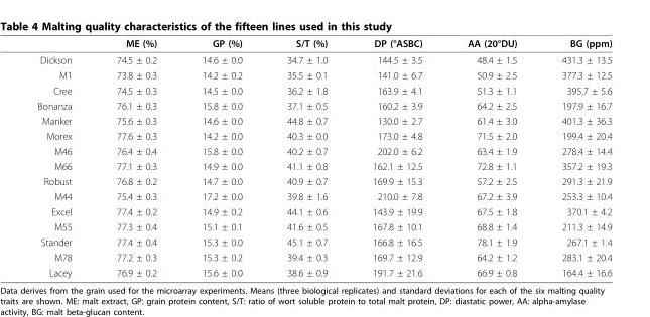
<table><thead><tr><td></td><td>ME (%)</td><td>GP (%)</td><td>S/T (%)</td><td>DP (°ASBC)</td><td>AA (20°DU)</td><td>BG (ppm)</td></tr></thead><tbody><tr><td>Dickson</td><td>74.5 ± 0.2</td><td>14.6 ± 0.0</td><td>34.7 ± 1.0</td><td>144.5 ± 3.5</td><td>48.4 ± 1.5</td><td>431.3 ± 13.5</td></tr><tr><td>M1</td><td>73.8 ± 0.3</td><td>14.2 ± 0.2</td><td>35.5 ± 0.1</td><td>141.0 ± 6.7</td><td>50.9 ± 2.5</td><td>377.3 ± 12.5</td></tr><tr><td>Cree</td><td>74.5 ± 0.3</td><td>14.5 ± 0.0</td><td>36.2 ± 1.8</td><td>163.9 ± 4.1</td><td>51.3 ± 1.1</td><td>395.7 ± 5.6</td></tr><tr><td>Bonanza</td><td>76.1 ± 0.3</td><td>15.8 ± 0.0</td><td>37.1 ± 0.5</td><td>160.2 ± 3.9</td><td>64.2 ± 2.5</td><td>197.9 ± 16.7</td></tr><tr><td>Manker</td><td>75.6 ± 0.3</td><td>14.6 ± 0.0</td><td>44.8 ± 0.7</td><td>130.0 ± 2.7</td><td>61.4 ± 3.0</td><td>401.3 ± 36.3</td></tr><tr><td>Morex</td><td>77.6 ± 0.3</td><td>14.2 ± 0.0</td><td>40.3 ± 0.0</td><td>173.0 ± 4.8</td><td>71.5 ± 2.0</td><td>199.4 ± 20.4</td></tr><tr><td>M46</td><td>76.4 ± 0.4</td><td>15.8 ± 0.0</td><td>40.2 ± 0.7</td><td>202.0 ± 6.2</td><td>63.4 ± 1.9</td><td>278.4 ± 14.4</td></tr><tr><td>M66</td><td>77.1 ± 0.3</td><td>14.9 ± 0.0</td><td>41.1 ± 0.8</td><td>162.1 ± 12.5</td><td>72.8 ± 1.1</td><td>357.2 ± 19.3</td></tr><tr><td>Robust</td><td>76.8 ± 0.2</td><td>14.7 ± 0.0</td><td>40.9 ± 0.7</td><td>169.9 ± 15.3</td><td>57.2 ± 2.5</td><td>291.3 ± 21.9</td></tr><tr><td>M44</td><td>75.4 ± 0.3</td><td>17.2 ± 0.0</td><td>39.8 ± 1.6</td><td>210.0 ± 7.8</td><td>67.2 ± 3.9</td><td>253.3 ± 10.4</td></tr><tr><td>Excel</td><td>77.4 ± 0.2</td><td>14.9 ± 0.2</td><td>44.1 ± 0.6</td><td>143.9 ± 19.9</td><td>67.5 ± 1.8</td><td>370.1 ± 4.2</td></tr><tr><td>M55</td><td>77.3 ± 0.4</td><td>15.1 ± 0.1</td><td>41.6 ± 0.5</td><td>167.8 ± 10.1</td><td>68.8 ± 1.4</td><td>211.3 ± 14.9</td></tr><tr><td>Stander</td><td>77.4 ± 0.4</td><td>15.3 ± 0.0</td><td>45.1 ± 0.7</td><td>166.8 ± 16.5</td><td>78.1 ± 1.9</td><td>267.1 ± 1.4</td></tr><tr><td>M78</td><td>77.2 ± 0.3</td><td>15.3 ± 0.2</td><td>39.4 ± 0.3</td><td>169.7 ± 12.9</td><td>64.2 ± 1.2</td><td>283.1 ± 20.4</td></tr><tr><td>Lacey</td><td>76.9 ± 0.2</td><td>15.6 ± 0.0</td><td>38.6 ± 0.9</td><td>191.7 ± 21.6</td><td>66.9 ± 0.8</td><td>164.4 ± 16.6</td></tr></tbody></table>